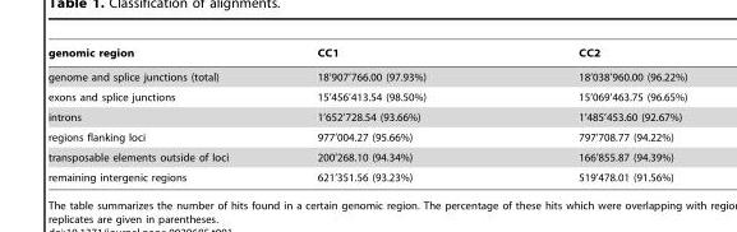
<table><thead><tr><td>genomic region</td><td>CC1</td><td>CC2</td></tr></thead><tbody><tr><td>genome and splice junctions (total)</td><td>18’907’766.00 (97.93%)</td><td>18’038’960.00 (96.22%)</td></tr><tr><td>exons and splice junctions</td><td>15’456’413.54 (98.50%)</td><td>15’069’463.75 (96.65%)</td></tr><tr><td>introns</td><td>1’652’728.54 (93.66%)</td><td>1’485’453.60 (92.67%)</td></tr><tr><td>regions flanking loci</td><td>977’004.27 (95.66%)</td><td>797’708.77 (94.22%)</td></tr><tr><td>transposable elements outside of loci</td><td>200’268.10 (94.34%)</td><td>166’855.87 (94.39%)</td></tr><tr><td>remaining intergenic regions</td><td>621’351.56 (93.23%)</td><td>519’478.01 (91.56%)</td></tr></tbody></table>